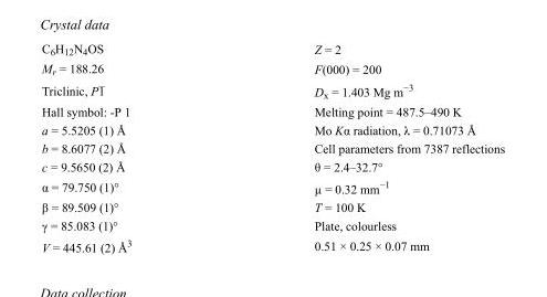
<table><tbody><tr><td>C<sub>6</sub>H<sub>12</sub>N<sub>4</sub>OS</td><td>Z = 2</td></tr><tr><td>M<sub>r</sub> = 188.26</td><td>F(000) = 200</td></tr><tr><td>Triclinic, P1</td><td>D<sub>x</sub> = 1.403 Mg m<sup>−3</sup></td></tr><tr><td>Hall symbol: -P 1</td><td>Melting point = 487.5–490 K</td></tr><tr><td>a = 5.5205 (1) Å</td><td>Mo Kα radiation, λ = 0.71073 Å</td></tr><tr><td>b = 8.6077 (2) Å</td><td>Cell parameters from 7387 reflections</td></tr><tr><td>c = 9.5650 (2) Å</td><td>θ = 2.4–32.7°</td></tr><tr><td>α = 79.750 (1)°</td><td>µ = 0.32 mm<sup>−1</sup></td></tr><tr><td>β = 89.509 (1)°</td><td>T = 100 K</td></tr><tr><td>γ = 85.083 (1)°</td><td>Plate, colourless</td></tr><tr><td>V = 445.61 (2) Å<sup>3</sup></td><td>0.51 × 0.25 × 0.07 mm</td></tr></tbody></table>